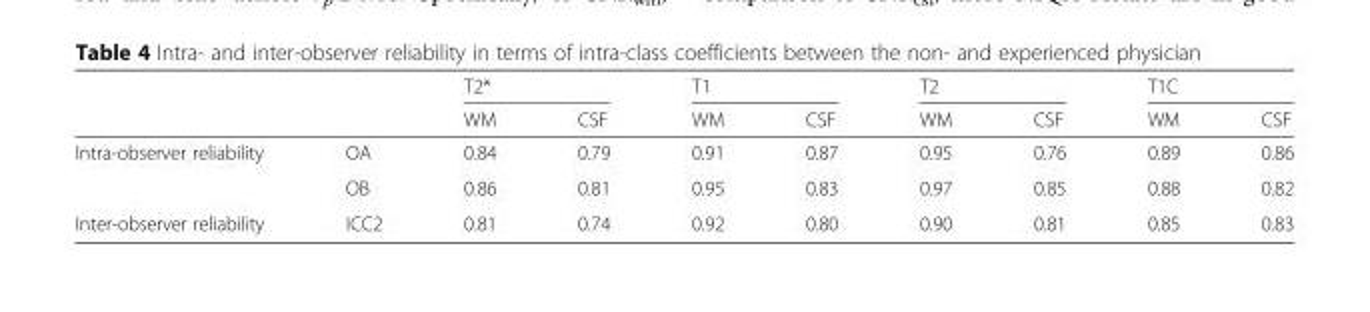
<table><thead><tr><td rowspan="2"></td><td rowspan="2"></td><td colspan="2">T2*</td><td colspan="2">T1</td><td colspan="2">T2</td><td colspan="2">T1C</td></tr><tr><td>WM</td><td>CSF</td><td>WM</td><td>CSF</td><td>WM</td><td>CSF</td><td>WM</td><td>CSF</td></tr></thead><tbody><tr><td rowspan="2">Intra-observer reliability</td><td>OA</td><td>0.84</td><td>0.79</td><td>0.91</td><td>0.87</td><td>0.95</td><td>0.76</td><td>0.89</td><td>0.86</td></tr><tr><td>OB</td><td>0.86</td><td>0.81</td><td>0.95</td><td>0.83</td><td>0.97</td><td>0.85</td><td>0.88</td><td>0.82</td></tr><tr><td>Inter-observer reliability</td><td>ICC2</td><td>0.81</td><td>0.74</td><td>0.92</td><td>0.80</td><td>0.90</td><td>0.81</td><td>0.85</td><td>0.83</td></tr></tbody></table>